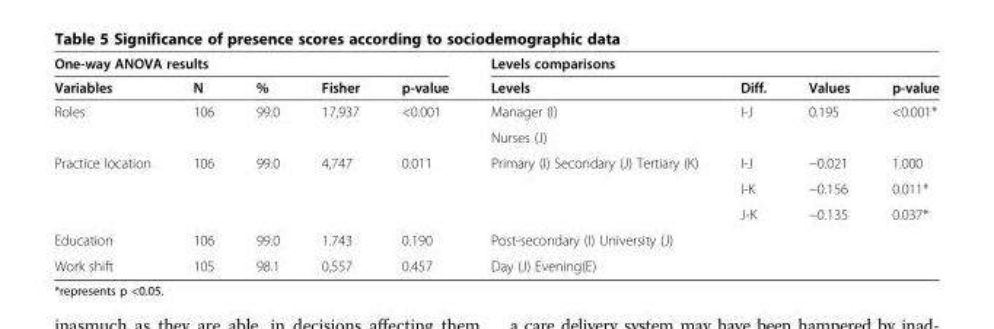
<table><thead><tr><td colspan="5">One-way ANOVA results</td><td colspan="4">Levels comparisons</td></tr><tr><td>Variables</td><td>N</td><td>%</td><td>Fisher</td><td>p-value</td><td>Levels</td><td>Diff.</td><td>Values</td><td>p-value</td></tr></thead><tbody><tr><td rowspan="2">Roles</td><td rowspan="2">106</td><td rowspan="2">99.0</td><td rowspan="2">17,937</td><td rowspan="2">&lt;0.001</td><td>Manager (I)</td><td rowspan="2">I-J</td><td rowspan="2">0.195</td><td rowspan="2">&lt;0.001*</td></tr><tr><td>Nurses (J)</td></tr><tr><td rowspan="3">Practice location</td><td rowspan="3">106</td><td rowspan="3">99.0</td><td rowspan="3">4,747</td><td rowspan="3">0.011</td><td rowspan="3">Primary (I) Secondary (J) Tertiary (K)</td><td>I-J</td><td>−0.021</td><td>1.000</td></tr><tr><td>I-K</td><td>−0.156</td><td>0.011*</td></tr><tr><td>J-K</td><td>−0.135</td><td>0.037*</td></tr><tr><td>Education</td><td>106</td><td>99.0</td><td>1.743</td><td>0.190</td><td>Post-secondary (I) University (J)</td><td></td><td></td><td></td></tr><tr><td>Work shift</td><td>105</td><td>98.1</td><td>0,557</td><td>0.457</td><td>Day (J) Evening(E)</td><td></td><td></td><td></td></tr></tbody></table>